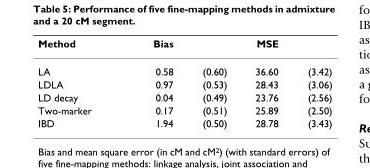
<table><thead><tr><td>Method</td><td>Bias</td><td></td><td>MSE</td><td></td></tr></thead><tbody><tr><td>LA</td><td>0.58</td><td>(0.60)</td><td>36.60</td><td>(3.42)</td></tr><tr><td>LDLA</td><td>0.97</td><td>(0.53)</td><td>28.43</td><td>(3.06)</td></tr><tr><td>LD decay</td><td>0.04</td><td>(0.49)</td><td>23.76</td><td>(2.56)</td></tr><tr><td>Two-marker</td><td>0.17</td><td>(0.51)</td><td>25.89</td><td>(2.50)</td></tr><tr><td>IBD</td><td>1.94</td><td>(0.50)</td><td>28.78</td><td>(3.43)</td></tr></tbody></table>